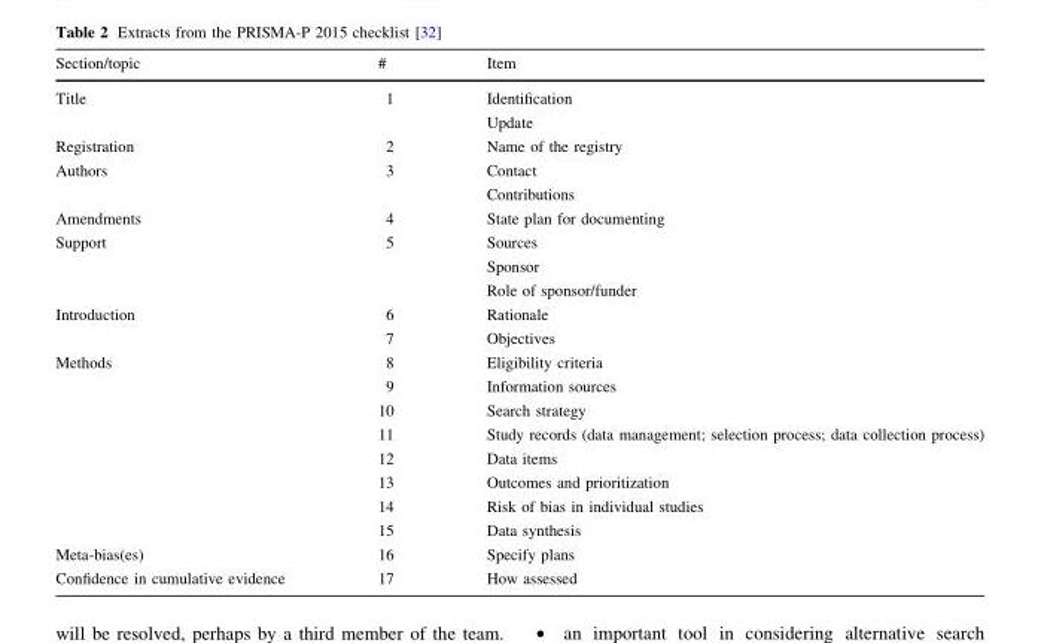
<table><thead><tr><td>Section/topic</td><td>#</td><td>Item</td></tr></thead><tbody><tr><td>Title</td><td>1</td><td>Identification Update</td></tr><tr><td>Registration</td><td>2</td><td>Name of the registry</td></tr><tr><td>Authors</td><td>3</td><td>Contact Contributions</td></tr><tr><td>Amendments</td><td>4</td><td>State plan for documenting</td></tr><tr><td>Support</td><td>5</td><td>Sources Sponsor Role of sponsor/funder</td></tr><tr><td rowspan="2">Introduction</td><td>6</td><td>Rationale</td></tr><tr><td>7</td><td>Objectives</td></tr><tr><td rowspan="8">Methods</td><td>8</td><td>Eligibility criteria</td></tr><tr><td>9</td><td>Information sources</td></tr><tr><td>10</td><td>Search strategy</td></tr><tr><td>11</td><td>Study records (data management; selection process; data collection process)</td></tr><tr><td>12</td><td>Data items</td></tr><tr><td>13</td><td>Outcomes and prioritization</td></tr><tr><td>14</td><td>Risk of bias in individual studies</td></tr><tr><td>15</td><td>Data synthesis</td></tr><tr><td>Meta-bias(es)</td><td>16</td><td>Specify plans</td></tr><tr><td>Confidence in cumulative evidence</td><td>17</td><td>How assessed</td></tr></tbody></table>